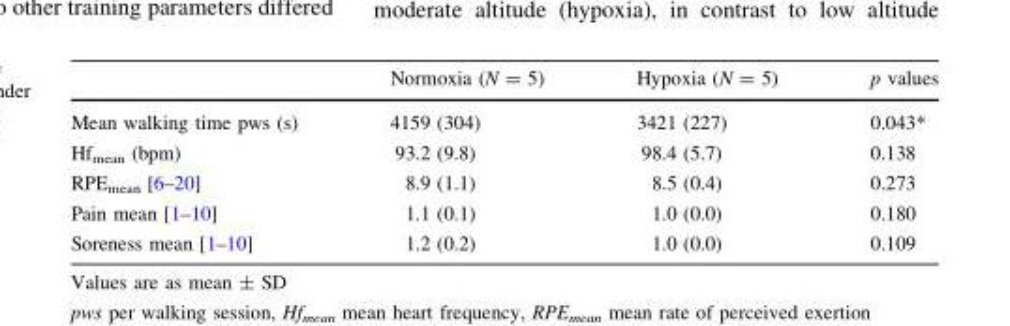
<table><thead><tr><td></td><td>Normoxia (N = 5)</td><td>Hypoxia (N = 5)</td><td>p values</td></tr></thead><tbody><tr><td>Mean walking time pws (s)</td><td>4159 (304)</td><td>3421 (227)</td><td>0.043*</td></tr><tr><td>Hf<sub>mean</sub> (bpm)</td><td>93.2 (9.8)</td><td>98.4 (5.7)</td><td>0.138</td></tr><tr><td>RPE<sub>mean</sub> [6–20]</td><td>8.9 (1.1)</td><td>8.5 (0.4)</td><td>0.273</td></tr><tr><td>Pain mean [1–10]</td><td>1.1 (0.1)</td><td>1.0 (0.0)</td><td>0.180</td></tr><tr><td>Soreness mean [1–10]</td><td>1.2 (0.2)</td><td>1.0 (0.0)</td><td>0.109</td></tr></tbody></table>